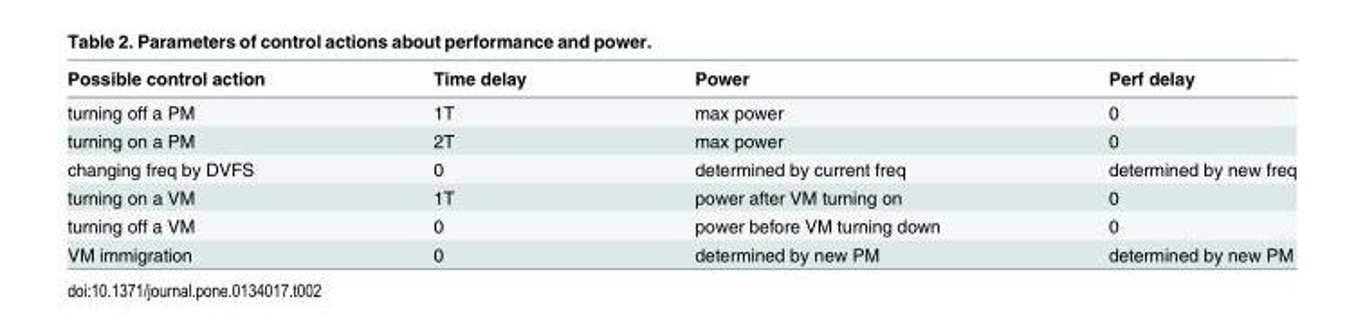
<table><thead><tr><td>Possible control action</td><td>Time delay</td><td>Power</td><td>Perf delay</td></tr></thead><tbody><tr><td>turning off a PM</td><td>1T</td><td>max power</td><td>0</td></tr><tr><td>turning on a PM</td><td>2T</td><td>max power</td><td>0</td></tr><tr><td>changing freq by DVFS</td><td>0</td><td>determined by current freq</td><td>determined by new freq</td></tr><tr><td>turning on a VM</td><td>1T</td><td>power after VM turning on</td><td>0</td></tr><tr><td>turning off a VM</td><td>0</td><td>power before VM turning down</td><td>0</td></tr><tr><td>VM immigration</td><td>0</td><td>determined by new PM</td><td>determined by new PM</td></tr></tbody></table>